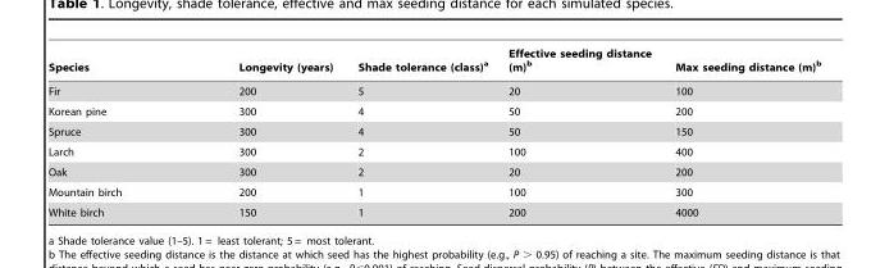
<table><thead><tr><td>Species</td><td>Longevity (years)</td><td>Shade tolerance (class)<sup>a</sup></td><td>Effective seeding distance (m)<sup>b</sup></td><td>Max seeding distance (m)<sup>b</sup></td></tr></thead><tbody><tr><td>Fir</td><td>200</td><td>5</td><td>20</td><td>100</td></tr><tr><td>Korean pine</td><td>300</td><td>4</td><td>50</td><td>200</td></tr><tr><td>Spruce</td><td>300</td><td>4</td><td>50</td><td>150</td></tr><tr><td>Larch</td><td>300</td><td>2</td><td>100</td><td>400</td></tr><tr><td>Oak</td><td>300</td><td>2</td><td>20</td><td>200</td></tr><tr><td>Mountain birch</td><td>200</td><td>1</td><td>100</td><td>300</td></tr><tr><td>White birch</td><td>150</td><td>1</td><td>200</td><td>4000</td></tr></tbody></table>